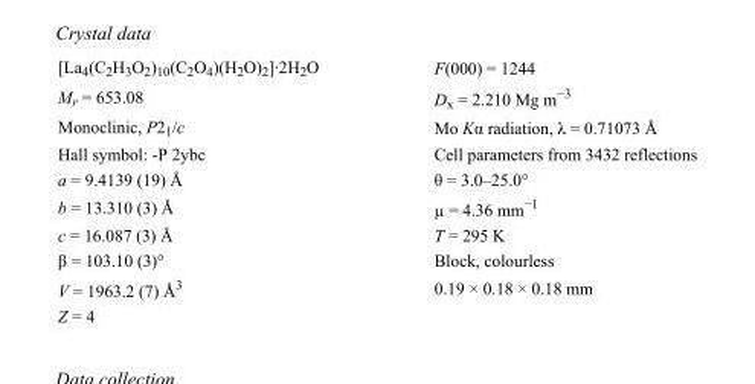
<table><tbody><tr><td>[La<sub>4</sub>(C<sub>2</sub>H<sub>3</sub>O<sub>2</sub>)<sub>10</sub>(C<sub>2</sub>O<sub>4</sub>)(H<sub>2</sub>O)<sub>2</sub>]·2H<sub>2</sub>O</td><td>F(000) = 1244</td></tr><tr><td>M<sub>r</sub> = 653.08</td><td>D<sub>x</sub> = 2.210 Mg m<sup>−3</sup></td></tr><tr><td>Monoclinic, P2<sub>1</sub>/c</td><td>Mo Kα radiation, λ = 0.71073 Å</td></tr><tr><td>Hall symbol: -P 2ybc</td><td>Cell parameters from 3432 reflections</td></tr><tr><td>a = 9.4139 (19) Å</td><td>θ = 3.0–25.0°</td></tr><tr><td>b = 13.310 (3) Å</td><td>µ = 4.36 mm<sup>−1</sup></td></tr><tr><td>c = 16.087 (3) Å</td><td>T = 295 K</td></tr><tr><td>β = 103.10 (3)°</td><td>Block, colourless</td></tr><tr><td>V = 1963.2 (7) Å<sup>3</sup></td><td>0.19 × 0.18 × 0.18 mm</td></tr><tr><td>Z = 4</td><td></td></tr></tbody></table>